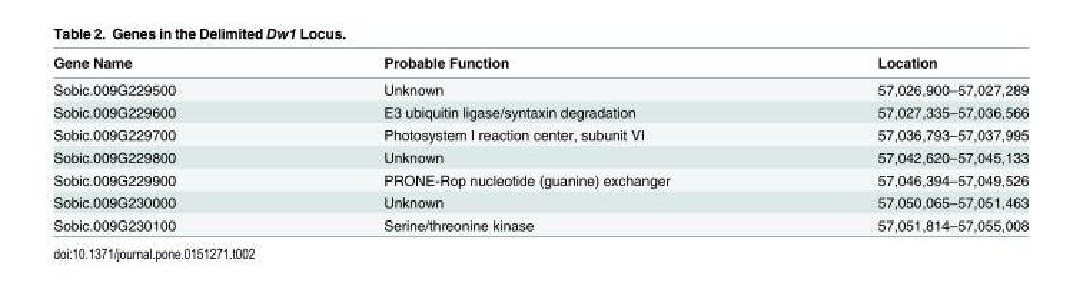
<table><thead><tr><td>Gene Name</td><td>Probable Function</td><td>Location</td></tr></thead><tbody><tr><td>Sobic.009G229500</td><td>Unknown</td><td>57,026,900–57,027,289</td></tr><tr><td>Sobic.009G229600</td><td>E3 ubiquitin ligase/syntaxin degradation</td><td>57,027,335–57,036,566</td></tr><tr><td>Sobic.009G229700</td><td>Photosystem I reaction center, subunit VI</td><td>57,036,793–57,037,995</td></tr><tr><td>Sobic.009G229800</td><td>Unknown</td><td>57,042,620–57,045,133</td></tr><tr><td>Sobic.009G229900</td><td>PRONE-Rop nucleotide (guanine) exchanger</td><td>57,046,394–57,049,526</td></tr><tr><td>Sobic.009G230000</td><td>Unknown</td><td>57,050,065–57,051,463</td></tr><tr><td>Sobic.009G230100</td><td>Serine/threonine kinase</td><td>57,051,814–57,055,008</td></tr></tbody></table>